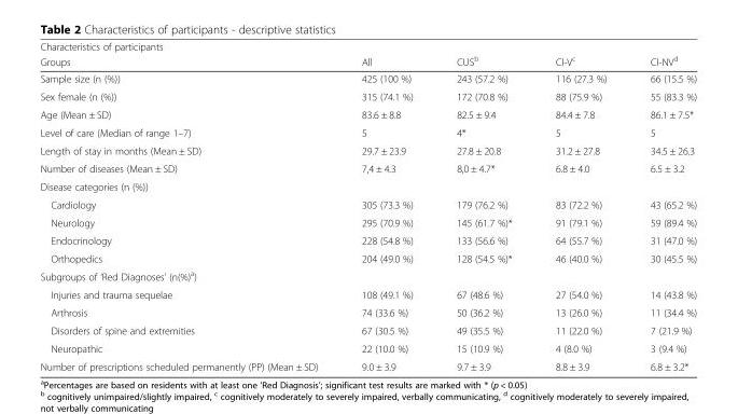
<table><thead><tr><td colspan="5">Characteristics of participants</td></tr><tr><td>Groups</td><td>All</td><td>CUS<sup>b</sup></td><td>CI-V<sup>c</sup></td><td>CI-NV<sup>d</sup></td></tr></thead><tbody><tr><td>Sample size (n (%))</td><td>425 (100 %)</td><td>243 (57.2 %)</td><td>116 (27.3 %)</td><td>66 (15.5 %)</td></tr><tr><td>Sex female (n (%))</td><td>315 (74.1 %)</td><td>172 (70.8 %)</td><td>88 (75.9 %)</td><td>55 (83.3 %)</td></tr><tr><td>Age (Mean ± SD)</td><td>83.6 ± 8.8</td><td>82.5 ± 9.4</td><td>84.4 ± 7.8</td><td>86.1 ± 7.5*</td></tr><tr><td>Level of care (Median of range 1–7)</td><td>5</td><td>4*</td><td>5</td><td>5</td></tr><tr><td>Length of stay in months (Mean ± SD)</td><td>29.7 ± 23.9</td><td>27.8 ± 20.8</td><td>31.2 ± 27.8</td><td>34.5 ± 26.3</td></tr><tr><td>Number of diseases (Mean ± SD)</td><td>7,4 ± 4.3</td><td>8,0 ± 4.7*</td><td>6.8 ± 4.0</td><td>6.5 ± 3.2</td></tr><tr><td colspan="5">Disease categories (n (%))</td></tr><tr><td>Cardiology</td><td>305 (73.3 %)</td><td>179 (76.2 %)</td><td>83 (72.2 %)</td><td>43 (65.2 %)</td></tr><tr><td>Neurology</td><td>295 (70.9 %)</td><td>145 (61.7 %)*</td><td>91 (79.1 %)</td><td>59 (89.4 %)</td></tr><tr><td>Endocrinology</td><td>228 (54.8 %)</td><td>133 (56.6 %)</td><td>64 (55.7 %)</td><td>31 (47.0 %)</td></tr><tr><td>Orthopedics</td><td>204 (49.0 %)</td><td>128 (54.5 %)*</td><td>46 (40.0 %)</td><td>30 (45.5 %)</td></tr><tr><td colspan="5">Subgroups of ‘Red Diagnoses’ (n(%)<sup>a</sup>)</td></tr><tr><td>Injuries and trauma sequelae</td><td>108 (49.1 %)</td><td>67 (48.6 %)</td><td>27 (54.0 %)</td><td>14 (43.8 %)</td></tr><tr><td>Arthrosis</td><td>74 (33.6 %)</td><td>50 (36.2 %)</td><td>13 (26.0 %)</td><td>11 (34.4 %)</td></tr><tr><td>Disorders of spine and extremities</td><td>67 (30.5 %)</td><td>49 (35.5 %)</td><td>11 (22.0 %)</td><td>7 (21.9 %)</td></tr><tr><td>Neuropathic</td><td>22 (10.0 %)</td><td>15 (10.9 %)</td><td>4 (8.0 %)</td><td>3 (9.4 %)</td></tr><tr><td>Number of prescriptions scheduled permanently (PP) (Mean ± SD)</td><td>9.0 ± 3.9</td><td>9.7 ± 3.9</td><td>8.8 ± 3.9</td><td>6.8 ± 3.2*</td></tr></tbody></table>